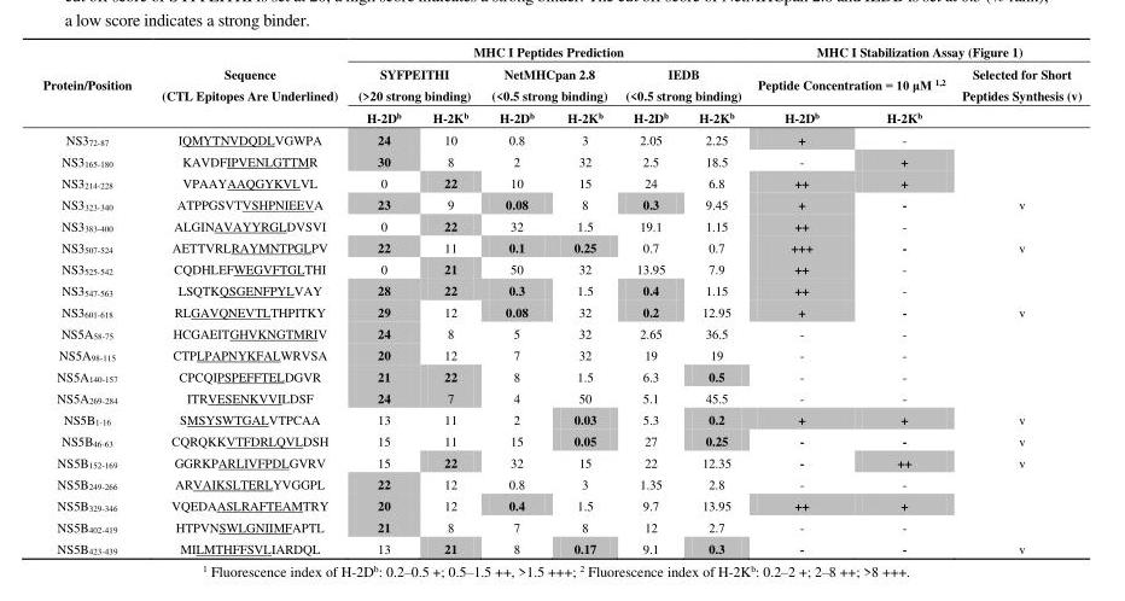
<table><thead><tr><td rowspan="3">Protein/Position</td><td rowspan="3">Sequence (CTL Epitopes Are Underlined)</td><td colspan="6">MHC I Peptides Prediction</td><td colspan="3">MHC I Stabilization Assay (Figure 1)</td></tr><tr><td colspan="2">SYFPEITHI (&gt;20 strong binding)</td><td colspan="2">NetMHCpan 2.8 (&lt;0.5 strong binding)</td><td colspan="2">IEDB (&lt;0.5 strong binding)</td><td colspan="2">Peptide Concentration = 10 μM <sup>1,2</sup></td><td rowspan="2">Selected for Short Peptides Synthesis (v)</td></tr><tr><td>H-2D<sup>b</sup></td><td>H-2K<sup>b</sup></td><td>H-2D<sup>b</sup></td><td>H-2K<sup>b</sup></td><td>H-2D<sup>b</sup></td><td>H-2K<sup>b</sup></td><td>H-2D<sup>b</sup></td><td>H-2K<sup>b</sup></td></tr></thead><tbody><tr><td>NS3<sub>72-87</sub></td><td>IQMYTNVDQDLVGWPA</td><td>24</td><td>10</td><td>0.8</td><td>3</td><td>2.05</td><td>2.25</td><td>+</td><td>-</td><td></td></tr><tr><td>NS3<sub>165-180</sub></td><td>KAVDFIPVENLGTTMR</td><td>30</td><td>8</td><td>2</td><td>32</td><td>2.5</td><td>18.5</td><td>-</td><td>+</td><td></td></tr><tr><td>NS3<sub>214-228</sub></td><td>VPAAYAAQGYKVLVL</td><td>0</td><td>22</td><td>10</td><td>15</td><td>24</td><td>6.8</td><td>++</td><td>+</td><td></td></tr><tr><td>NS3<sub>323-340</sub></td><td>ATPPGSVTVSHPNIEEVA</td><td>23</td><td>9</td><td>0.08</td><td>8</td><td>0.3</td><td>9.45</td><td>+</td><td>-</td><td>v</td></tr><tr><td>NS3<sub>383-400</sub></td><td>ALGINAVAYYRGLDVSVI</td><td>0</td><td>22</td><td>32</td><td>1.5</td><td>19.1</td><td>1.15</td><td>++</td><td>-</td><td></td></tr><tr><td>NS3<sub>507-524</sub></td><td>AETTVRLRAYMNTPGLPV</td><td>22</td><td>11</td><td>0.1</td><td>0.25</td><td>0.7</td><td>0.7</td><td>+++</td><td>-</td><td>v</td></tr><tr><td>NS3<sub>525-542</sub></td><td>CQDHLEFWEGVFTGLTHI</td><td>0</td><td>21</td><td>50</td><td>32</td><td>13.95</td><td>7.9</td><td>++</td><td>-</td><td></td></tr><tr><td>NS3<sub>547-563</sub></td><td>LSQTKQSGENFPYLVAY</td><td>28</td><td>22</td><td>0.3</td><td>1.5</td><td>0.4</td><td>1.15</td><td>++</td><td>-</td><td></td></tr><tr><td>NS3<sub>601-618</sub></td><td>RLGAVQNEVTLTHPITKY</td><td>29</td><td>12</td><td>0.08</td><td>32</td><td>0.2</td><td>12.95</td><td>+</td><td>-</td><td>v</td></tr><tr><td>NS5A<sub>58-75</sub></td><td>HCGAEITGHVKNGTMRIV</td><td>24</td><td>8</td><td>5</td><td>32</td><td>2.65</td><td>36.5</td><td>-</td><td>-</td><td></td></tr><tr><td>NS5A<sub>98-115</sub></td><td>CTPLPAPNYKFALWRVSA</td><td>20</td><td>12</td><td>7</td><td>32</td><td>19</td><td>19</td><td>-</td><td>-</td><td></td></tr><tr><td>NS5A<sub>140-157</sub></td><td>CPCQIPSPEFFTELDGVR</td><td>21</td><td>22</td><td>8</td><td>1.5</td><td>6.3</td><td>0.5</td><td>-</td><td>-</td><td></td></tr><tr><td>NS5A<sub>269-284</sub></td><td>ITRVESENKVVILDSF</td><td>24</td><td>7</td><td>4</td><td>50</td><td>5.1</td><td>45.5</td><td>-</td><td>-</td><td></td></tr><tr><td>NS5B<sub>1-16</sub></td><td>SMSYSWTGALVTPCAA</td><td>13</td><td>11</td><td>2</td><td>0.03</td><td>5.3</td><td>0.2</td><td>+</td><td>+</td><td>v</td></tr><tr><td>NS5B<sub>46-63</sub></td><td>CQRQKKVTFDRLQVLDSH</td><td>15</td><td>11</td><td>15</td><td>0.05</td><td>27</td><td>0.25</td><td>-</td><td>-</td><td>v</td></tr><tr><td>NS5B<sub>152-169</sub></td><td>GGRKPARLIVFPDLGVRV</td><td>15</td><td>22</td><td>32</td><td>15</td><td>22</td><td>12.35</td><td>-</td><td>++</td><td>v</td></tr><tr><td>NS5B<sub>249-266</sub></td><td>ARVAIKSLTERLYVGGPL</td><td>22</td><td>12</td><td>0.8</td><td>3</td><td>1.35</td><td>2.8</td><td>-</td><td>-</td><td></td></tr><tr><td>NS5B<sub>329-346</sub></td><td>VQEDAASLRAFTEAMTRY</td><td>20</td><td>12</td><td>0.4</td><td>1.5</td><td>9.7</td><td>13.95</td><td>++</td><td>+</td><td></td></tr><tr><td>NS5B<sub>402-419</sub></td><td>HTPVNSWLGNIIMFAPTL</td><td>21</td><td>8</td><td>7</td><td>8</td><td>12</td><td>2.7</td><td>-</td><td>-</td><td></td></tr><tr><td>NS5B<sub>423-439</sub></td><td>MILMTHFFSVLIARDQL</td><td>13</td><td>21</td><td>8</td><td>0.17</td><td>9.1</td><td>0.3</td><td>-</td><td>-</td><td>v</td></tr></tbody></table>